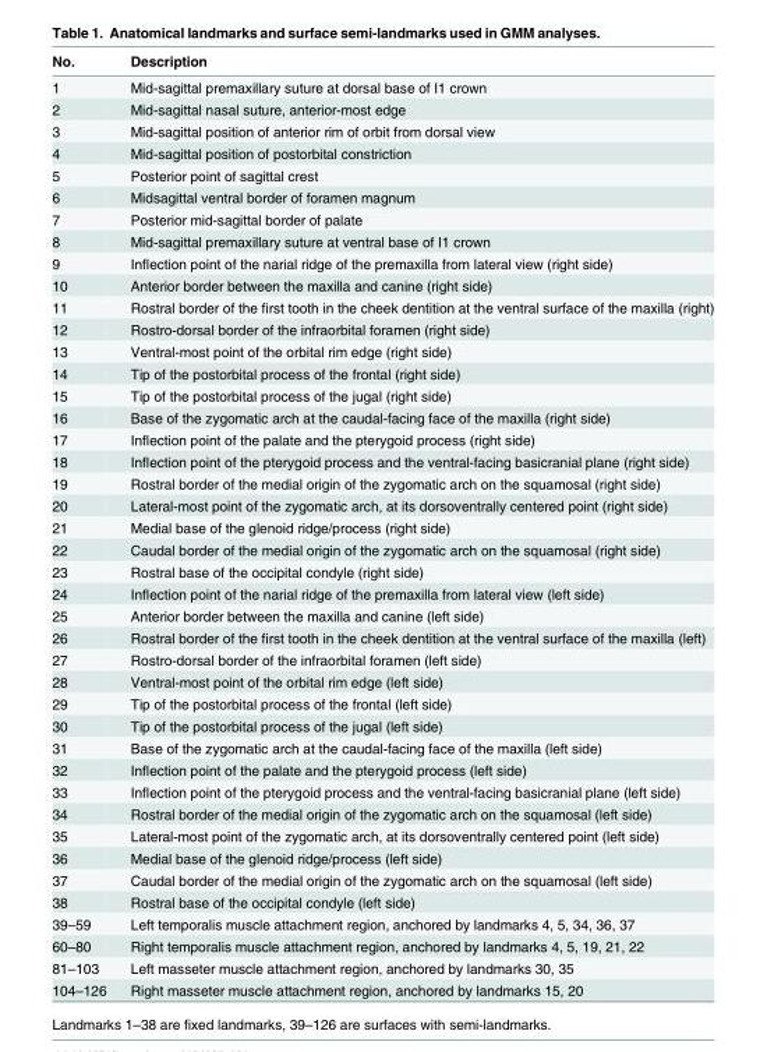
<table><thead><tr><td>No.</td><td>Description</td></tr></thead><tbody><tr><td>1</td><td>Mid-sagittal premaxillary suture at dorsal base of I1 crown</td></tr><tr><td>2</td><td>Mid-sagittal nasal suture, anterior-most edge</td></tr><tr><td>3</td><td>Mid-sagittal position of anterior rim of orbit from dorsal view</td></tr><tr><td>4</td><td>Mid-sagittal position of postorbital constriction</td></tr><tr><td>5</td><td>Posterior point of sagittal crest</td></tr><tr><td>6</td><td>Midsagittal ventral border of foramen magnum</td></tr><tr><td>7</td><td>Posterior mid-sagittal border of palate</td></tr><tr><td>8</td><td>Mid-sagittal premaxillary suture at ventral base of I1 crown</td></tr><tr><td>9</td><td>Inflection point of the narial ridge of the premaxilla from lateral view (right side)</td></tr><tr><td>10</td><td>Anterior border between the maxilla and canine (right side)</td></tr><tr><td>11</td><td>Rostral border of the first tooth in the cheek dentition at the ventral surface of the maxilla (right)</td></tr><tr><td>12</td><td>Rostro-dorsal border of the infraorbital foramen (right side)</td></tr><tr><td>13</td><td>Ventral-most point of the orbital rim edge (right side)</td></tr><tr><td>14</td><td>Tip of the postorbital process of the frontal (right side)</td></tr><tr><td>15</td><td>Tip of the postorbital process of the jugal (right side)</td></tr><tr><td>16</td><td>Base of the zygomatic arch at the caudal-facing face of the maxilla (right side)</td></tr><tr><td>17</td><td>Inflection point of the palate and the pterygoid process (right side)</td></tr><tr><td>18</td><td>Inflection point of the pterygoid process and the ventral-facing basicranial plane (right side)</td></tr><tr><td>19</td><td>Rostral border of the medial origin of the zygomatic arch on the squamosal (right side)</td></tr><tr><td>20</td><td>Lateral-most point of the zygomatic arch, at its dorsoventrally centered point (right side)</td></tr><tr><td>21</td><td>Medial base of the glenoid ridge/process (right side)</td></tr><tr><td>22</td><td>Caudal border of the medial origin of the zygomatic arch on the squamosal (right side)</td></tr><tr><td>23</td><td>Rostral base of the occipital condyle (right side)</td></tr><tr><td>24</td><td>Inflection point of the narial ridge of the premaxilla from lateral view (left side)</td></tr><tr><td>25</td><td>Anterior border between the maxilla and canine (left side)</td></tr><tr><td>26</td><td>Rostral border of the first tooth in the cheek dentition at the ventral surface of the maxilla (left)</td></tr><tr><td>27</td><td>Rostro-dorsal border of the infraorbital foramen (left side)</td></tr><tr><td>28</td><td>Ventral-most point of the orbital rim edge (left side)</td></tr><tr><td>29</td><td>Tip of the postorbital process of the frontal (left side)</td></tr><tr><td>30</td><td>Tip of the postorbital process of the jugal (left side)</td></tr><tr><td>31</td><td>Base of the zygomatic arch at the caudal-facing face of the maxilla (left side)</td></tr><tr><td>32</td><td>Inflection point of the palate and the pterygoid process (left side)</td></tr><tr><td>33</td><td>Inflection point of the pterygoid process and the ventral-facing basicranial plane (left side)</td></tr><tr><td>34</td><td>Rostral border of the medial origin of the zygomatic arch on the squamosal (left side)</td></tr><tr><td>35</td><td>Lateral-most point of the zygomatic arch, at its dorsoventrally centered point (left side)</td></tr><tr><td>36</td><td>Medial base of the glenoid ridge/process (left side)</td></tr><tr><td>37</td><td>Caudal border of the medial origin of the zygomatic arch on the squamosal (left side)</td></tr><tr><td>38</td><td>Rostral base of the occipital condyle (left side)</td></tr><tr><td>39–59</td><td>Left temporalis muscle attachment region, anchored by landmarks 4, 5, 34, 36, 37</td></tr><tr><td>60–80</td><td>Right temporalis muscle attachment region, anchored by landmarks 4, 5, 19, 21, 22</td></tr><tr><td>81–103</td><td>Left masseter muscle attachment region, anchored by landmarks 30, 35</td></tr><tr><td>104–126</td><td>Right masseter muscle attachment region, anchored by landmarks 15, 20</td></tr></tbody></table>